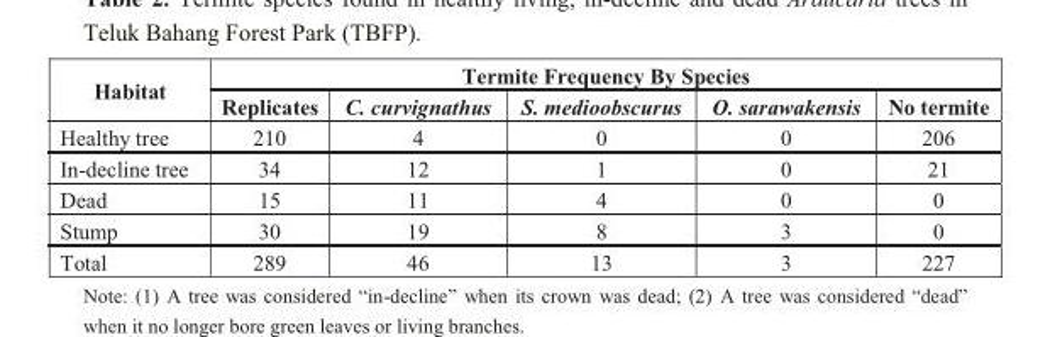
<table><thead><tr><td rowspan="2">Habitat</td><td colspan="5">Termite Frequency By Species</td></tr><tr><td>Replicates</td><td>C. curvignathus</td><td>S. medioobscurus</td><td>O. sarawakensis</td><td>No termite</td></tr></thead><tbody><tr><td>Healthy tree</td><td>210</td><td>4</td><td>0</td><td>0</td><td>206</td></tr><tr><td>In-decline tree</td><td>34</td><td>12</td><td>1</td><td>0</td><td>21</td></tr><tr><td>Dead</td><td>15</td><td>11</td><td>4</td><td>0</td><td>0</td></tr><tr><td>Stump</td><td>30</td><td>19</td><td>8</td><td>3</td><td>0</td></tr><tr><td>Total</td><td>289</td><td>46</td><td>13</td><td>3</td><td>227</td></tr></tbody></table>